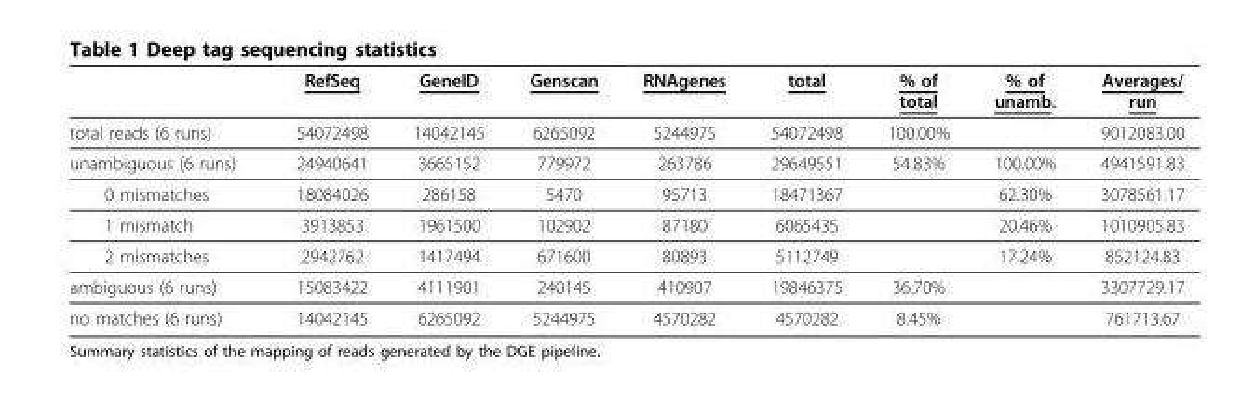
<table><thead><tr><td></td><td>RefSeq</td><td>GeneID</td><td>Genscan</td><td>RNAgenes</td><td>total</td><td>% of total</td><td>% of unamb.</td><td>Averages/ run</td></tr></thead><tbody><tr><td>total reads (6 runs)</td><td>54072498</td><td>14042145</td><td>6265092</td><td>5244975</td><td>54072498</td><td>100.00%</td><td></td><td>9012083.00</td></tr><tr><td>unambiguous (6 runs)</td><td>24940641</td><td>3665152</td><td>779972</td><td>263786</td><td>29649551</td><td>54.83%</td><td>100.00%</td><td>4941591.83</td></tr><tr><td>0 mismatches</td><td>18084026</td><td>286158</td><td>5470</td><td>95713</td><td>18471367</td><td></td><td>62.30%</td><td>3078561.17</td></tr><tr><td>1 mismatch</td><td>3913853</td><td>1961500</td><td>102902</td><td>87180</td><td>6065435</td><td></td><td>20.46%</td><td>1010905.83</td></tr><tr><td>2 mismatches</td><td>2942762</td><td>1417494</td><td>671600</td><td>80893</td><td>5112749</td><td></td><td>17.24%</td><td>852124.83</td></tr><tr><td>ambiguous (6 runs)</td><td>15083422</td><td>4111901</td><td>240145</td><td>410907</td><td>19846375</td><td>36.70%</td><td></td><td>3307729.17</td></tr><tr><td>no matches (6 runs)</td><td>14042145</td><td>6265092</td><td>5244975</td><td>4570282</td><td>4570282</td><td>8.45%</td><td></td><td>761713.67</td></tr></tbody></table>